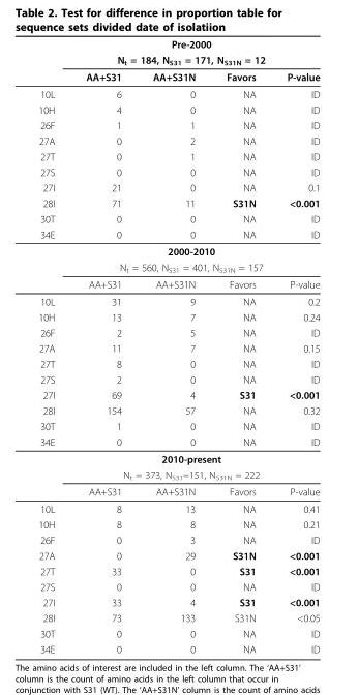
<table><thead><tr><td rowspan="3"></td><td rowspan="2" colspan="4">Pre-2000 N<sub>t</sub> = 184, N<sub>S31</sub> = 171, N<sub>S31N</sub> = 12</td></tr><tr></tr><tr><td>AA+S31</td><td>AA+S31N</td><td>Favors</td><td>P-value</td></tr></thead><tbody><tr><td>10L</td><td>6</td><td>0</td><td>NA</td><td>ID</td></tr><tr><td>10H</td><td>4</td><td>0</td><td>NA</td><td>ID</td></tr><tr><td>26F</td><td>1</td><td>1</td><td>NA</td><td>ID</td></tr><tr><td>27A</td><td>0</td><td>2</td><td>NA</td><td>ID</td></tr><tr><td>27T</td><td>0</td><td>1</td><td>NA</td><td>ID</td></tr><tr><td>27S</td><td>0</td><td>0</td><td>NA</td><td>ID</td></tr><tr><td>27I</td><td>21</td><td>0</td><td>NA</td><td>0.1</td></tr><tr><td>28I</td><td>71</td><td>11</td><td>S31N</td><td>&lt;0.001</td></tr><tr><td>30T</td><td>0</td><td>0</td><td>NA</td><td>ID</td></tr><tr><td rowspan="4">34E</td><td>0</td><td>0</td><td>NA</td><td>ID</td></tr><tr><td colspan="4">2000-2010</td></tr><tr><td colspan="4">N<sub>t</sub> = 560, N<sub>S31</sub> = 401, N<sub>S31N</sub> = 157</td></tr><tr><td>AA+S31</td><td>AA+S31N</td><td>Favors</td><td>P-value</td></tr><tr><td>10L</td><td>31</td><td>9</td><td>NA</td><td>0.2</td></tr><tr><td>10H</td><td>13</td><td>7</td><td>NA</td><td>0.24</td></tr><tr><td>26F</td><td>2</td><td>5</td><td>NA</td><td>ID</td></tr><tr><td>27A</td><td>11</td><td>7</td><td>NA</td><td>0.15</td></tr><tr><td>27T</td><td>8</td><td>0</td><td>NA</td><td>ID</td></tr><tr><td>27S</td><td>2</td><td>0</td><td>NA</td><td>ID</td></tr><tr><td>27I</td><td>69</td><td>4</td><td>S31</td><td>&lt;0.001</td></tr><tr><td>28I</td><td>154</td><td>57</td><td>NA</td><td>0.32</td></tr><tr><td>30T</td><td>1</td><td>0</td><td>NA</td><td>ID</td></tr><tr><td rowspan="4">34E</td><td>0</td><td>0</td><td>NA</td><td>ID</td></tr><tr><td colspan="4">2010-present</td></tr><tr><td colspan="4">N<sub>t</sub> = 373, N<sub>S31</sub>=151, N<sub>S31N</sub> = 222</td></tr><tr><td>AA+S31</td><td>AA+S31N</td><td>Favors</td><td>P-value</td></tr><tr><td>10L</td><td>8</td><td>13</td><td>NA</td><td>0.41</td></tr><tr><td>10H</td><td>8</td><td>8</td><td>NA</td><td>0.21</td></tr><tr><td>26F</td><td>0</td><td>3</td><td>NA</td><td>ID</td></tr><tr><td>27A</td><td>0</td><td>29</td><td>S31N</td><td>&lt;0.001</td></tr><tr><td>27T</td><td>33</td><td>0</td><td>S31</td><td>&lt;0.001</td></tr><tr><td>27S</td><td>0</td><td>0</td><td>NA</td><td>ID</td></tr><tr><td>27I</td><td>33</td><td>4</td><td>S31</td><td>&lt;0.001</td></tr><tr><td>28I</td><td>73</td><td>133</td><td>S31N</td><td>&lt;0.05</td></tr><tr><td>30T</td><td>0</td><td>0</td><td>NA</td><td>ID</td></tr><tr><td>34E</td><td>0</td><td>0</td><td>NA</td><td>ID</td></tr></tbody></table>